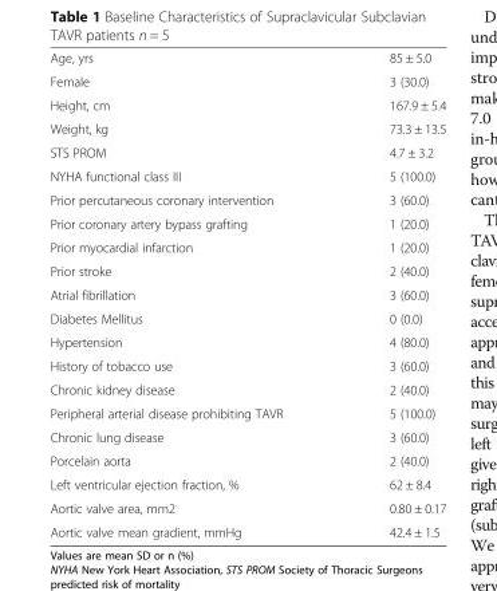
<table><tbody><tr><td>Age, yrs</td><td>85 ± 5.0</td></tr><tr><td>Female</td><td>3 (30.0)</td></tr><tr><td>Height, cm</td><td>167.9 ± 5.4</td></tr><tr><td>Weight, kg</td><td>73.3 ± 13.5</td></tr><tr><td>STS PROM</td><td>4.7 ± 3.2</td></tr><tr><td>NYHA functional class III</td><td>5 (100.0)</td></tr><tr><td>Prior percutaneous coronary intervention</td><td>3 (60.0)</td></tr><tr><td>Prior coronary artery bypass grafting</td><td>1 (20.0)</td></tr><tr><td>Prior myocardial infarction</td><td>1 (20.0)</td></tr><tr><td>Prior stroke</td><td>2 (40.0)</td></tr><tr><td>Atrial fibrillation</td><td>3 (60.0)</td></tr><tr><td>Diabetes Mellitus</td><td>0 (0.0)</td></tr><tr><td>Hypertension</td><td>4 (80.0)</td></tr><tr><td>History of tobacco use</td><td>3 (60.0)</td></tr><tr><td>Chronic kidney disease</td><td>2 (40.0)</td></tr><tr><td>Peripheral arterial disease prohibiting TAVR</td><td>5 (100.0)</td></tr><tr><td>Chronic lung disease</td><td>3 (60.0)</td></tr><tr><td>Porcelain aorta</td><td>2 (40.0)</td></tr><tr><td>Left ventricular ejection fraction, %</td><td>62 ± 8.4</td></tr><tr><td>Aortic valve area, mm2</td><td>0.80 ± 0.17</td></tr><tr><td>Aortic valve mean gradient, mmHg</td><td>42.4 ± 1.5</td></tr></tbody></table>